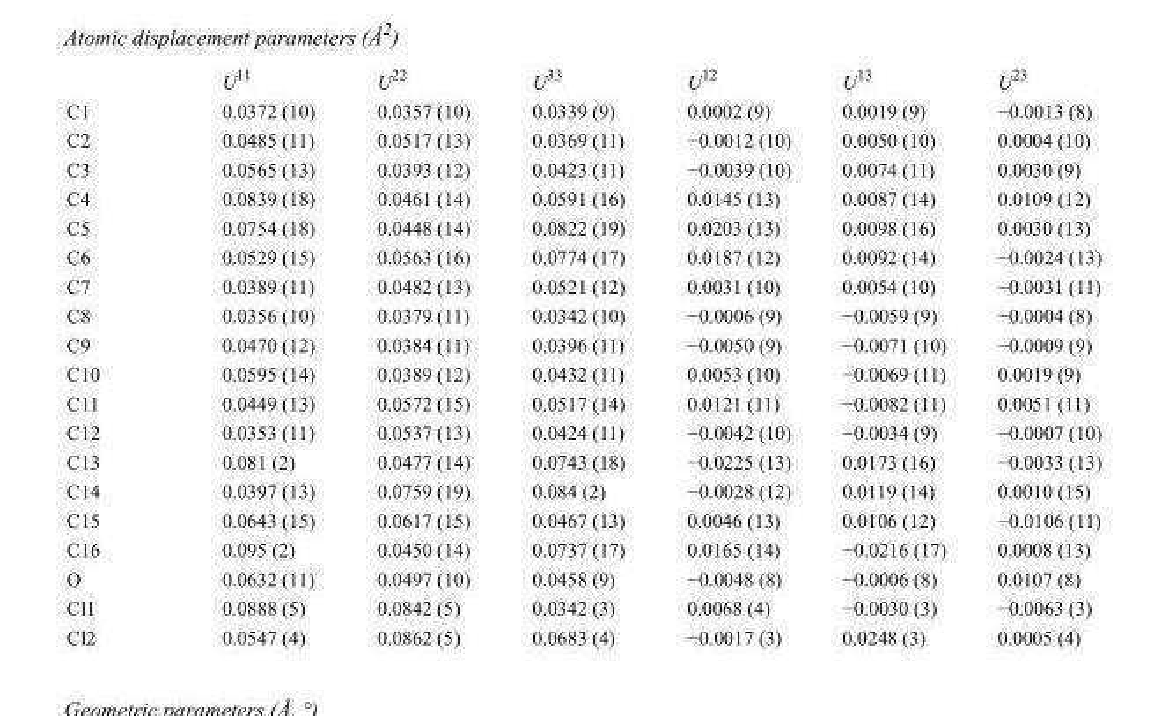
<table><thead><tr><td></td><td>U<sup>11</sup></td><td>U<sup>22</sup></td><td>U<sup>33</sup></td><td>U<sup>12</sup></td><td>U<sup>13</sup></td><td>U<sup>23</sup></td></tr></thead><tbody><tr><td>C1</td><td>0.0372 (10)</td><td>0.0357 (10)</td><td>0.0339 (9)</td><td>0.0002 (9)</td><td>0.0019 (9)</td><td>−0.0013 (8)</td></tr><tr><td>C2</td><td>0.0485 (11)</td><td>0.0517 (13)</td><td>0.0369 (11)</td><td>−0.0012 (10)</td><td>0.0050 (10)</td><td>0.0004 (10)</td></tr><tr><td>C3</td><td>0.0565 (13)</td><td>0.0393 (12)</td><td>0.0423 (11)</td><td>−0.0039 (10)</td><td>0.0074 (11)</td><td>0.0030 (9)</td></tr><tr><td>C4</td><td>0.0839 (18)</td><td>0.0461 (14)</td><td>0.0591 (16)</td><td>0.0145 (13)</td><td>0.0087 (14)</td><td>0.0109 (12)</td></tr><tr><td>C5</td><td>0.0754 (18)</td><td>0.0448 (14)</td><td>0.0822 (19)</td><td>0.0203 (13)</td><td>0.0098 (16)</td><td>0.0030 (13)</td></tr><tr><td>C6</td><td>0.0529 (15)</td><td>0.0563 (16)</td><td>0.0774 (17)</td><td>0.0187 (12)</td><td>0.0092 (14)</td><td>−0.0024 (13)</td></tr><tr><td>C7</td><td>0.0389 (11)</td><td>0.0482 (13)</td><td>0.0521 (12)</td><td>0.0031 (10)</td><td>0.0054 (10)</td><td>−0.0031 (11)</td></tr><tr><td>C8</td><td>0.0356 (10)</td><td>0.0379 (11)</td><td>0.0342 (10)</td><td>−0.0006 (9)</td><td>−0.0059 (9)</td><td>−0.0004 (8)</td></tr><tr><td>C9</td><td>0.0470 (12)</td><td>0.0384 (11)</td><td>0.0396 (11)</td><td>−0.0050 (9)</td><td>−0.0071 (10)</td><td>−0.0009 (9)</td></tr><tr><td>C10</td><td>0.0595 (14)</td><td>0.0389 (12)</td><td>0.0432 (11)</td><td>0.0053 (10)</td><td>−0.0069 (11)</td><td>0.0019 (9)</td></tr><tr><td>C11</td><td>0.0449 (13)</td><td>0.0572 (15)</td><td>0.0517 (14)</td><td>0.0121 (11)</td><td>−0.0082 (11)</td><td>0.0051 (11)</td></tr><tr><td>C12</td><td>0.0353 (11)</td><td>0.0537 (13)</td><td>0.0424 (11)</td><td>−0.0042 (10)</td><td>−0.0034 (9)</td><td>−0.0007 (10)</td></tr><tr><td>C13</td><td>0.081 (2)</td><td>0.0477 (14)</td><td>0.0743 (18)</td><td>−0.0225 (13)</td><td>0.0173 (16)</td><td>−0.0033 (13)</td></tr><tr><td>C14</td><td>0.0397 (13)</td><td>0.0759 (19)</td><td>0.084 (2)</td><td>−0.0028 (12)</td><td>0.0119 (14)</td><td>0.0010 (15)</td></tr><tr><td>C15</td><td>0.0643 (15)</td><td>0.0617 (15)</td><td>0.0467 (13)</td><td>0.0046 (13)</td><td>0.0106 (12)</td><td>−0.0106 (11)</td></tr><tr><td>C16</td><td>0.095 (2)</td><td>0.0450 (14)</td><td>0.0737 (17)</td><td>0.0165 (14)</td><td>−0.0216 (17)</td><td>0.0008 (13)</td></tr><tr><td>O</td><td>0.0632 (11)</td><td>0.0497 (10)</td><td>0.0458 (9)</td><td>−0.0048 (8)</td><td>−0.0006 (8)</td><td>0.0107 (8)</td></tr><tr><td>Cl1</td><td>0.0888 (5)</td><td>0.0842 (5)</td><td>0.0342 (3)</td><td>0.0068 (4)</td><td>−0.0030 (3)</td><td>−0.0063 (3)</td></tr><tr><td>Cl2</td><td>0.0547 (4)</td><td>0.0862 (5)</td><td>0.0683 (4)</td><td>−0.0017 (3)</td><td>0.0248 (3)</td><td>0.0005 (4)</td></tr></tbody></table>